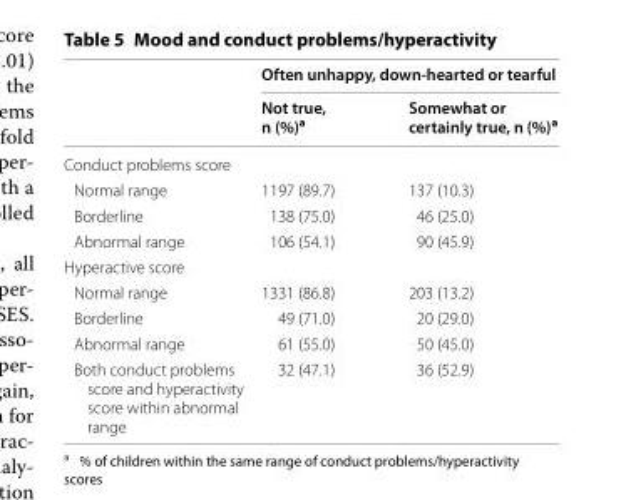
<table><thead><tr><td rowspan="2"></td><td colspan="2">Often unhappy, down-hearted or tearful</td></tr><tr><td>Not true, n (%)<sup>a</sup></td><td>Somewhat or certainly true, n (%)<sup>a</sup></td></tr></thead><tbody><tr><td colspan="3">Conduct problems score</td></tr><tr><td>Normal range</td><td>1197 (89.7)</td><td>137 (10.3)</td></tr><tr><td>Borderline</td><td>138 (75.0)</td><td>46 (25.0)</td></tr><tr><td>Abnormal range</td><td>106 (54.1)</td><td>90 (45.9)</td></tr><tr><td colspan="3">Hyperactive score</td></tr><tr><td>Normal range</td><td>1331 (86.8)</td><td>203 (13.2)</td></tr><tr><td>Borderline</td><td>49 (71.0)</td><td>20 (29.0)</td></tr><tr><td>Abnormal range</td><td>61 (55.0)</td><td>50 (45.0)</td></tr><tr><td>Both conduct problems score and hyperactivity score within abnormal range</td><td>32 (47.1)</td><td>36 (52.9)</td></tr></tbody></table>